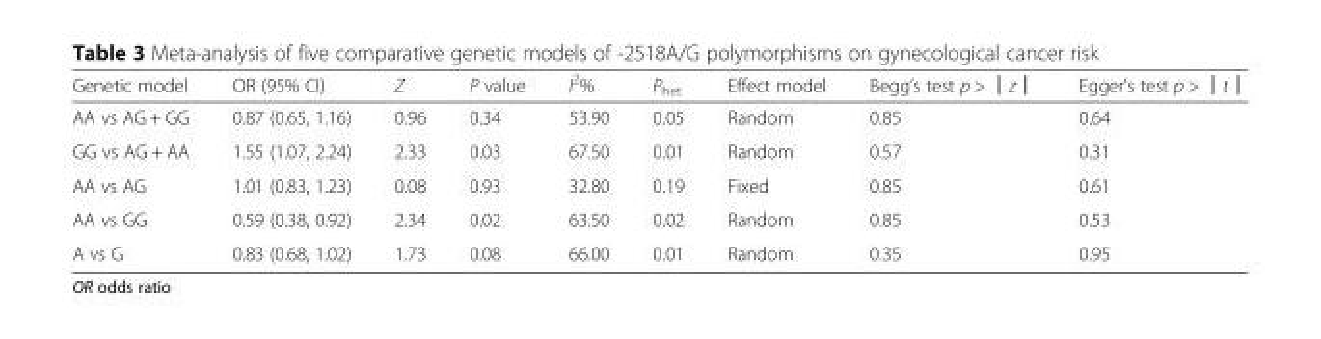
<table><thead><tr><td>Genetic model</td><td>OR (95% CI)</td><td>Z</td><td>P value</td><td>I<sup>2</sup>%</td><td>P<sub>het</sub></td><td>Effect model</td><td>Begg’s test p &gt; │z│</td><td>Egger’s test p &gt; │t│</td></tr></thead><tbody><tr><td>AA vs AG + GG</td><td>0.87 (0.65, 1.16)</td><td>0.96</td><td>0.34</td><td>53.90</td><td>0.05</td><td>Random</td><td>0.85</td><td>0.64</td></tr><tr><td>GG vs AG + AA</td><td>1.55 (1.07, 2.24)</td><td>2.33</td><td>0.03</td><td>67.50</td><td>0.01</td><td>Random</td><td>0.57</td><td>0.31</td></tr><tr><td>AA vs AG</td><td>1.01 (0.83, 1.23)</td><td>0.08</td><td>0.93</td><td>32.80</td><td>0.19</td><td>Fixed</td><td>0.85</td><td>0.61</td></tr><tr><td>AA vs GG</td><td>0.59 (0.38, 0.92)</td><td>2.34</td><td>0.02</td><td>63.50</td><td>0.02</td><td>Random</td><td>0.85</td><td>0.53</td></tr><tr><td>A vs G</td><td>0.83 (0.68, 1.02)</td><td>1.73</td><td>0.08</td><td>66.00</td><td>0.01</td><td>Random</td><td>0.35</td><td>0.95</td></tr></tbody></table>